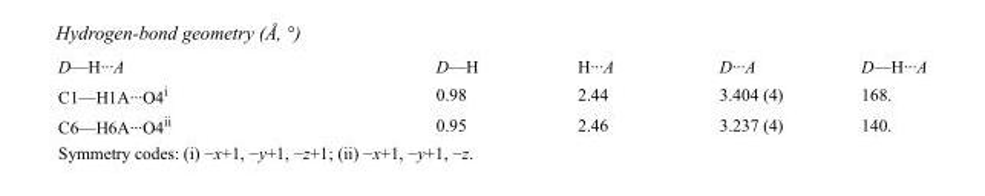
<table><tbody><tr><td>D—H···A</td><td>D—H</td><td>H···A</td><td>D···A</td><td>D—H···A</td></tr><tr><td>C1—H1A···O4<sup>i</sup></td><td>0.98</td><td>2.44</td><td>3.404 (4)</td><td>168.</td></tr><tr><td>C6—H6A···O4<sup>ii</sup></td><td>0.95</td><td>2.46</td><td>3.237 (4)</td><td>140.</td></tr></tbody></table>